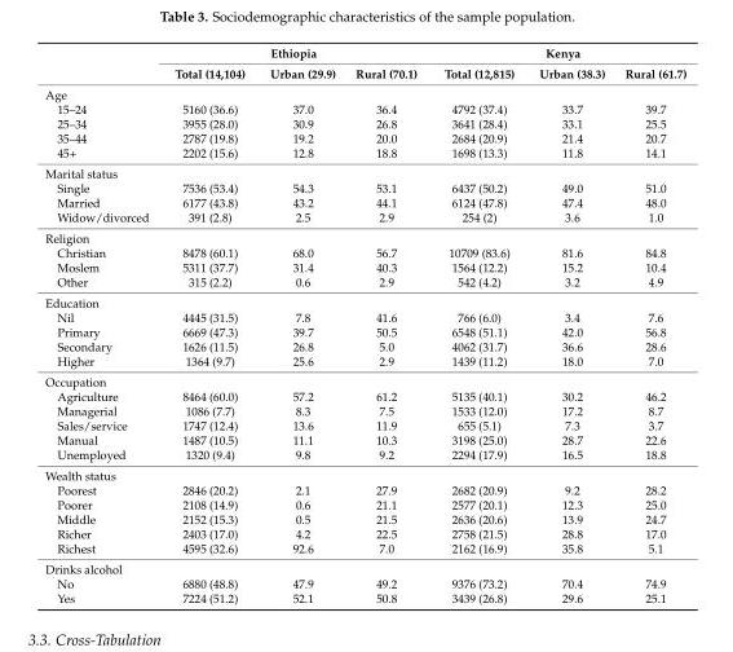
<table><thead><tr><td rowspan="2"></td><td colspan="3">Ethiopia</td><td colspan="3">Kenya</td></tr><tr><td>Total (14,104)</td><td>Urban (29.9)</td><td>Rural (70.1)</td><td>Total (12,815)</td><td>Urban (38.3)</td><td>Rural (61.7)</td></tr></thead><tbody><tr><td colspan="7">Age</td></tr><tr><td>15–24</td><td>5160 (36.6)</td><td>37.0</td><td>36.4</td><td>4792 (37.4)</td><td>33.7</td><td>39.7</td></tr><tr><td>25–34</td><td>3955 (28.0)</td><td>30.9</td><td>26.8</td><td>3641 (28.4)</td><td>33.1</td><td>25.5</td></tr><tr><td>35–44</td><td>2787 (19.8)</td><td>19.2</td><td>20.0</td><td>2684 (20.9)</td><td>21.4</td><td>20.7</td></tr><tr><td>45+</td><td>2202 (15.6)</td><td>12.8</td><td>18.8</td><td>1698 (13.3)</td><td>11.8</td><td>14.1</td></tr><tr><td colspan="7">Marital status</td></tr><tr><td>Single</td><td>7536 (53.4)</td><td>54.3</td><td>53.1</td><td>6437 (50.2)</td><td>49.0</td><td>51.0</td></tr><tr><td>Married</td><td>6177 (43.8)</td><td>43.2</td><td>44.1</td><td>6124 (47.8)</td><td>47.4</td><td>48.0</td></tr><tr><td>Widow/divorced</td><td>391 (2.8)</td><td>2.5</td><td>2.9</td><td>254 (2)</td><td>3.6</td><td>1.0</td></tr><tr><td colspan="7">Religion</td></tr><tr><td>Christian</td><td>8478 (60.1)</td><td>68.0</td><td>56.7</td><td>10709 (83.6)</td><td>81.6</td><td>84.8</td></tr><tr><td>Moslem</td><td>5311 (37.7)</td><td>31.4</td><td>40.3</td><td>1564 (12.2)</td><td>15.2</td><td>10.4</td></tr><tr><td>Other</td><td>315 (2.2)</td><td>0.6</td><td>2.9</td><td>542 (4.2)</td><td>3.2</td><td>4.9</td></tr><tr><td colspan="7">Education</td></tr><tr><td>Nil</td><td>4445 (31.5)</td><td>7.8</td><td>41.6</td><td>766 (6.0)</td><td>3.4</td><td>7.6</td></tr><tr><td>Primary</td><td>6669 (47.3)</td><td>39.7</td><td>50.5</td><td>6548 (51.1)</td><td>42.0</td><td>56.8</td></tr><tr><td>Secondary</td><td>1626 (11.5)</td><td>26.8</td><td>5.0</td><td>4062 (31.7)</td><td>36.6</td><td>28.6</td></tr><tr><td>Higher</td><td>1364 (9.7)</td><td>25.6</td><td>2.9</td><td>1439 (11.2)</td><td>18.0</td><td>7.0</td></tr><tr><td colspan="7">Occupation</td></tr><tr><td>Agriculture</td><td>8464 (60.0)</td><td>57.2</td><td>61.2</td><td>5135 (40.1)</td><td>30.2</td><td>46.2</td></tr><tr><td>Managerial</td><td>1086 (7.7)</td><td>8.3</td><td>7.5</td><td>1533 (12.0)</td><td>17.2</td><td>8.7</td></tr><tr><td>Sales/service</td><td>1747 (12.4)</td><td>13.6</td><td>11.9</td><td>655 (5.1)</td><td>7.3</td><td>3.7</td></tr><tr><td>Manual</td><td>1487 (10.5)</td><td>11.1</td><td>10.3</td><td>3198 (25.0)</td><td>28.7</td><td>22.6</td></tr><tr><td>Unemployed</td><td>1320 (9.4)</td><td>9.8</td><td>9.2</td><td>2294 (17.9)</td><td>16.5</td><td>18.8</td></tr><tr><td colspan="7">Wealth status</td></tr><tr><td>Poorest</td><td>2846 (20.2)</td><td>2.1</td><td>27.9</td><td>2682 (20.9)</td><td>9.2</td><td>28.2</td></tr><tr><td>Poorer</td><td>2108 (14.9)</td><td>0.6</td><td>21.1</td><td>2577 (20.1)</td><td>12.3</td><td>25.0</td></tr><tr><td>Middle</td><td>2152 (15.3)</td><td>0.5</td><td>21.5</td><td>2636 (20.6)</td><td>13.9</td><td>24.7</td></tr><tr><td>Richer</td><td>2403 (17.0)</td><td>4.2</td><td>22.5</td><td>2758 (21.5)</td><td>28.8</td><td>17.0</td></tr><tr><td>Richest</td><td>4595 (32.6)</td><td>92.6</td><td>7.0</td><td>2162 (16.9)</td><td>35.8</td><td>5.1</td></tr><tr><td colspan="7">Drinks alcohol</td></tr><tr><td>No</td><td>6880 (48.8)</td><td>47.9</td><td>49.2</td><td>9376 (73.2)</td><td>70.4</td><td>74.9</td></tr><tr><td>Yes</td><td>7224 (51.2)</td><td>52.1</td><td>50.8</td><td>3439 (26.8)</td><td>29.6</td><td>25.1</td></tr></tbody></table>